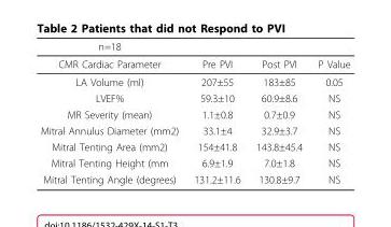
<table><thead><tr><td>n=18</td><td></td><td></td><td></td></tr></thead><tbody><tr><td>CMR Cardiac Parameter</td><td>Pre PVI</td><td>Post PVI</td><td>P Value</td></tr><tr><td>LA Volume (ml)</td><td>207±55</td><td>183±85</td><td>0.05</td></tr><tr><td>LVEF%</td><td>59.3±10</td><td>60.9±8.6</td><td>NS</td></tr><tr><td>MR Severity (mean)</td><td>1.1±0.8</td><td>0.7±0.9</td><td>NS</td></tr><tr><td>Mitral Annulus Diameter (mm2)</td><td>33.1±4</td><td>32.9±3.7</td><td>NS</td></tr><tr><td>Mitral Tenting Area (mm2)</td><td>154±41.8</td><td>143.8±45.4</td><td>NS</td></tr><tr><td>Mitral Tenting Height (mm</td><td>6.9±1.9</td><td>7.0±1.8</td><td>NS</td></tr><tr><td>Mitral Tenting Angle (degrees)</td><td>131.2±11.6</td><td>130.8±9.7</td><td>NS</td></tr></tbody></table>